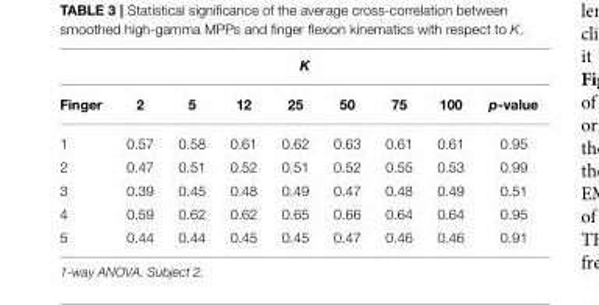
<table><thead><tr><td colspan="9">K</td></tr><tr><td>Finger</td><td>2</td><td>5</td><td>12</td><td>25</td><td>50</td><td>75</td><td>100</td><td>p-value</td></tr></thead><tbody><tr><td>1</td><td>0.57</td><td>0.58</td><td>0.61</td><td>0.62</td><td>0.63</td><td>0.61</td><td>0.61</td><td>0.95</td></tr><tr><td>2</td><td>0.47</td><td>0.51</td><td>0.52</td><td>0.51</td><td>0.52</td><td>0.55</td><td>0.53</td><td>0.99</td></tr><tr><td>3</td><td>0.39</td><td>0.45</td><td>0.48</td><td>0.49</td><td>0.47</td><td>0.48</td><td>0.49</td><td>0.51</td></tr><tr><td>4</td><td>0.59</td><td>0.62</td><td>0.62</td><td>0.65</td><td>0.66</td><td>0.64</td><td>0.64</td><td>0.95</td></tr><tr><td>5</td><td>0.44</td><td>0.44</td><td>0.45</td><td>0.45</td><td>0.47</td><td>0.46</td><td>0.46</td><td>0.91</td></tr></tbody></table>